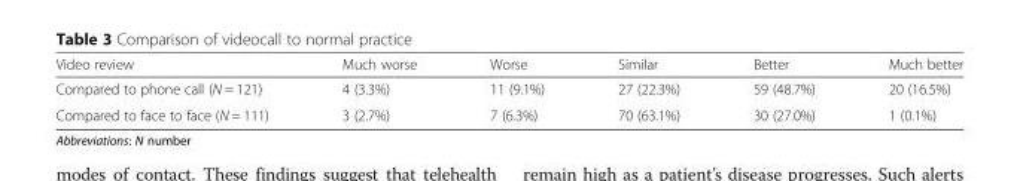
<table><thead><tr><td>Video review</td><td>Much worse</td><td>Worse</td><td>Similar</td><td>Better</td><td>Much better</td></tr></thead><tbody><tr><td>Compared to phone call (N = 121)</td><td>4 (3.3%)</td><td>11 (9.1%)</td><td>27 (22.3%)</td><td>59 (48.7%)</td><td>20 (16.5%)</td></tr><tr><td>Compared to face to face (N = 111)</td><td>3 (2.7%)</td><td>7 (6.3%)</td><td>70 (63.1%)</td><td>30 (27.0%)</td><td>1 (0.1%)</td></tr></tbody></table>